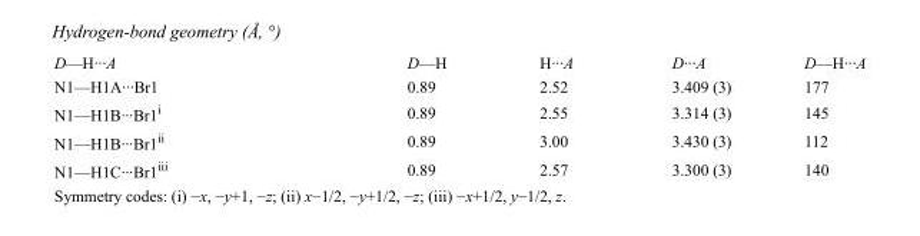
<table><tbody><tr><td>D—H···A</td><td>D—H</td><td>H···A</td><td>D···A</td><td>D—H···A</td></tr><tr><td>N1—H1A···Br1</td><td>0.89</td><td>2.52</td><td>3.409 (3)</td><td>177</td></tr><tr><td>N1—H1B···Br1<sup>i</sup></td><td>0.89</td><td>2.55</td><td>3.314 (3)</td><td>145</td></tr><tr><td>N1—H1B···Br1<sup>ii</sup></td><td>0.89</td><td>3.00</td><td>3.430 (3)</td><td>112</td></tr><tr><td>N1—H1C···Br1<sup>iii</sup></td><td>0.89</td><td>2.57</td><td>3.300 (3)</td><td>140</td></tr></tbody></table>